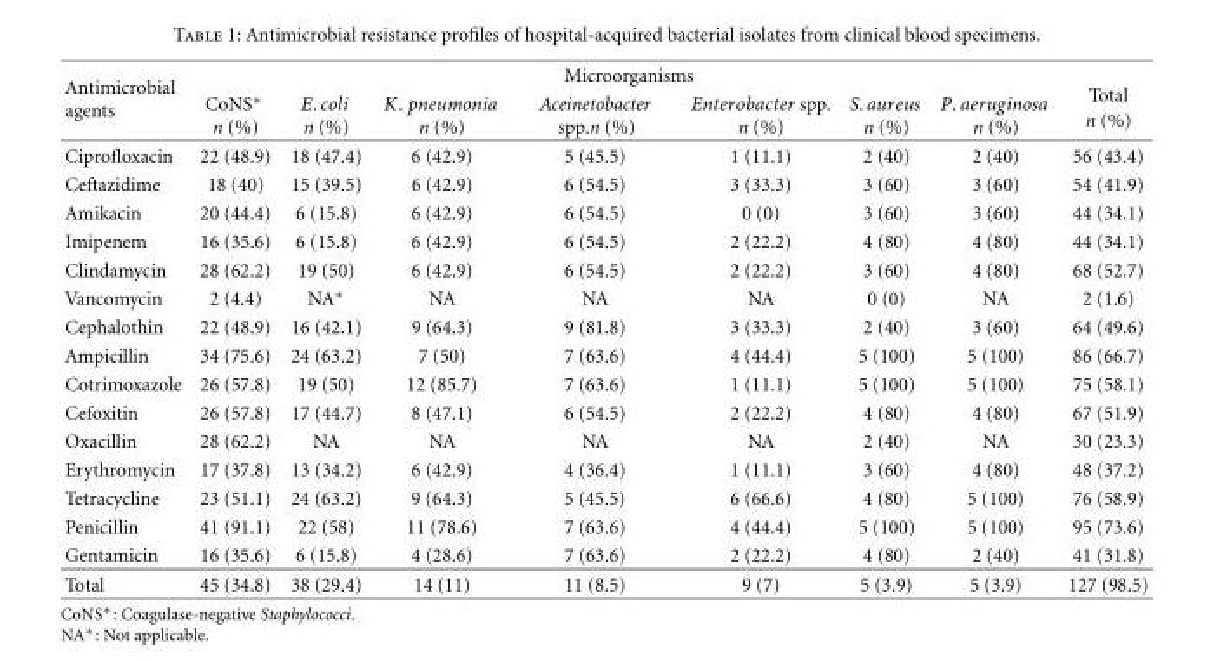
<table><thead><tr><td rowspan="2">Antimicrobial agents</td><td colspan="7">Microorganisms</td><td rowspan="2">Total n (%)</td></tr><tr><td>CoNS∗ n (%)</td><td>E. coli n (%)</td><td>K. pneumonia n (%)</td><td>Aceinetobacter spp.n (%)</td><td>Enterobacter spp. n (%)</td><td>S. aureus n (%)</td><td>P. aeruginosa n (%)</td></tr></thead><tbody><tr><td>Ciprofloxacin</td><td>22 (48.9)</td><td>18 (47.4)</td><td>6 (42.9)</td><td>5 (45.5)</td><td>1 (11.1)</td><td>2 (40)</td><td>2 (40)</td><td>56 (43.4)</td></tr><tr><td>Ceftazidime</td><td>18 (40)</td><td>15 (39.5)</td><td>6 (42.9)</td><td>6 (54.5)</td><td>3 (33.3)</td><td>3 (60)</td><td>3 (60)</td><td>54 (41.9)</td></tr><tr><td>Amikacin</td><td>20 (44.4)</td><td>6 (15.8)</td><td>6 (42.9)</td><td>6 (54.5)</td><td>0 (0)</td><td>3 (60)</td><td>3 (60)</td><td>44 (34.1)</td></tr><tr><td>Imipenem</td><td>16 (35.6)</td><td>6 (15.8)</td><td>6 (42.9)</td><td>6 (54.5)</td><td>2 (22.2)</td><td>4 (80)</td><td>4 (80)</td><td>44 (34.1)</td></tr><tr><td>Clindamycin</td><td>28 (62.2)</td><td>19 (50)</td><td>6 (42.9)</td><td>6 (54.5)</td><td>2 (22.2)</td><td>3 (60)</td><td>4 (80)</td><td>68 (52.7)</td></tr><tr><td>Vancomycin</td><td>2 (4.4)</td><td>NA∗</td><td>NA</td><td>NA</td><td>NA</td><td>0 (0)</td><td>NA</td><td>2 (1.6)</td></tr><tr><td>Cephalothin</td><td>22 (48.9)</td><td>16 (42.1)</td><td>9 (64.3)</td><td>9 (81.8)</td><td>3 (33.3)</td><td>2 (40)</td><td>3 (60)</td><td>64 (49.6)</td></tr><tr><td>Ampicillin</td><td>34 (75.6)</td><td>24 (63.2)</td><td>7 (50)</td><td>7 (63.6)</td><td>4 (44.4)</td><td>5 (100)</td><td>5 (100)</td><td>86 (66.7)</td></tr><tr><td>Cotrimoxazole</td><td>26 (57.8)</td><td>19 (50)</td><td>12 (85.7)</td><td>7 (63.6)</td><td>1 (11.1)</td><td>5 (100)</td><td>5 (100)</td><td>75 (58.1)</td></tr><tr><td>Cefoxitin</td><td>26 (57.8)</td><td>17 (44.7)</td><td>8 (47.1)</td><td>6 (54.5)</td><td>2 (22.2)</td><td>4 (80)</td><td>4 (80)</td><td>67 (51.9)</td></tr><tr><td>Oxacillin</td><td>28 (62.2)</td><td>NA</td><td>NA</td><td>NA</td><td>NA</td><td>2 (40)</td><td>NA</td><td>30 (23.3)</td></tr><tr><td>Erythromycin</td><td>17 (37.8)</td><td>13 (34.2)</td><td>6 (42.9)</td><td>4 (36.4)</td><td>1 (11.1)</td><td>3 (60)</td><td>4 (80)</td><td>48 (37.2)</td></tr><tr><td>Tetracycline</td><td>23 (51.1)</td><td>24 (63.2)</td><td>9 (64.3)</td><td>5 (45.5)</td><td>6 (66.6)</td><td>4 (80)</td><td>5 (100)</td><td>76 (58.9)</td></tr><tr><td>Penicillin</td><td>41 (91.1)</td><td>22 (58)</td><td>11 (78.6)</td><td>7 (63.6)</td><td>4 (44.4)</td><td>5 (100)</td><td>5 (100)</td><td>95 (73.6)</td></tr><tr><td>Gentamicin</td><td>16 (35.6)</td><td>6 (15.8)</td><td>4 (28.6)</td><td>7 (63.6)</td><td>2 (22.2)</td><td>4 (80)</td><td>2 (40)</td><td>41 (31.8)</td></tr><tr><td>Total</td><td>45 (34.8)</td><td>38 (29.4)</td><td>14 (11)</td><td>11 (8.5)</td><td>9 (7)</td><td>5 (3.9)</td><td>5 (3.9)</td><td>127 (98.5)</td></tr></tbody></table>